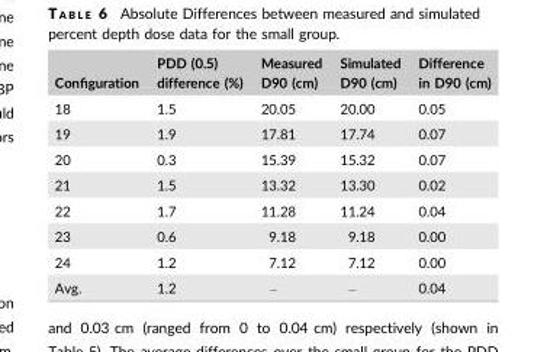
<table><thead><tr><td>Configuration</td><td>PDD (0.5) difference (%)</td><td>Measured D90 (cm)</td><td>Simulated D90 (cm)</td><td>Difference in D90 (cm)</td></tr></thead><tbody><tr><td>18</td><td>1.5</td><td>20.05</td><td>20.00</td><td>0.05</td></tr><tr><td>19</td><td>1.9</td><td>17.81</td><td>17.74</td><td>0.07</td></tr><tr><td>20</td><td>0.3</td><td>15.39</td><td>15.32</td><td>0.07</td></tr><tr><td>21</td><td>1.5</td><td>13.32</td><td>13.30</td><td>0.02</td></tr><tr><td>22</td><td>1.7</td><td>11.28</td><td>11.24</td><td>0.04</td></tr><tr><td>23</td><td>0.6</td><td>9.18</td><td>9.18</td><td>0.00</td></tr><tr><td>24</td><td>1.2</td><td>7.12</td><td>7.12</td><td>0.00</td></tr><tr><td>Avg.</td><td>1.2</td><td>–</td><td>–</td><td>0.04</td></tr></tbody></table>